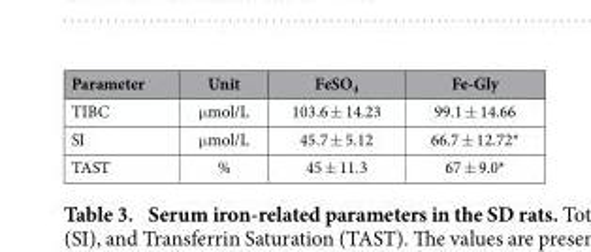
<table><thead><tr><td>Parameter</td><td>Unit</td><td>FeSO<sub>4</sub></td><td>Fe-Gly</td></tr></thead><tbody><tr><td>TIBC</td><td>μ mol/L</td><td>103.6 ± 14.23</td><td>99.1 ± 14.66</td></tr><tr><td>SI</td><td>μ mol/L</td><td>45.7 ± 5.12</td><td>66.7 ± 12.72*</td></tr><tr><td>TAST</td><td>%</td><td>45 ± 11.3</td><td>67 ± 9.0*</td></tr></tbody></table>